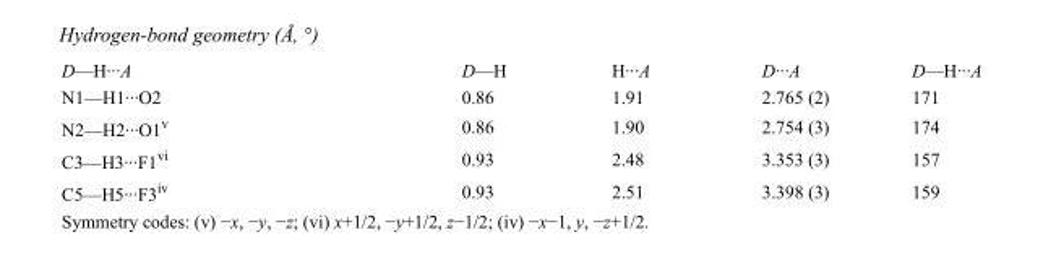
<table><tbody><tr><td>D—H···A</td><td>D—H</td><td>H···A</td><td>D···A</td><td>D—H···A</td></tr><tr><td>N1—H1···O2</td><td>0.86</td><td>1.91</td><td>2.765 (2)</td><td>171</td></tr><tr><td>N2—H2···O1<sup>v</sup></td><td>0.86</td><td>1.90</td><td>2.754 (3)</td><td>174</td></tr><tr><td>C3—H3···F1<sup>vi</sup></td><td>0.93</td><td>2.48</td><td>3.353 (3)</td><td>157</td></tr><tr><td>C5—H5···F3<sup>iv</sup></td><td>0.93</td><td>2.51</td><td>3.398 (3)</td><td>159</td></tr></tbody></table>